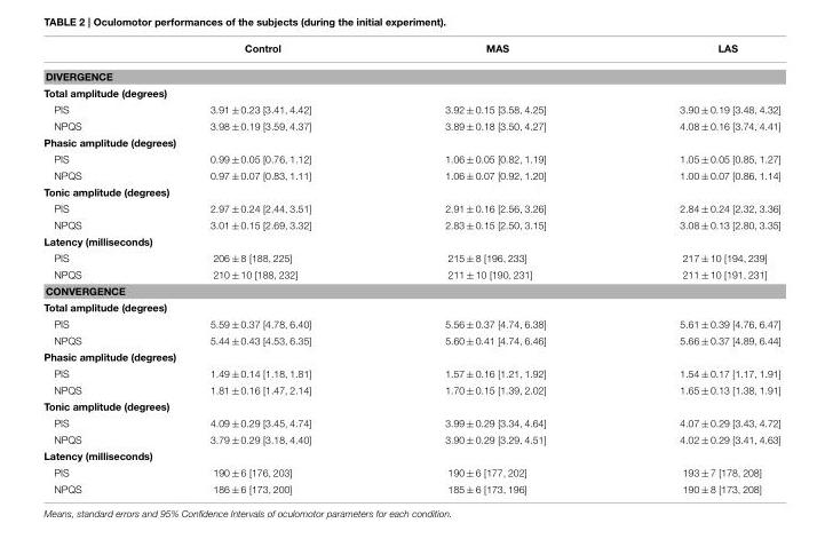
<table><thead><tr><td></td><td>Control</td><td>MAS</td><td>LAS</td></tr></thead><tbody><tr><td colspan="4">DIVERGENCE</td></tr><tr><td colspan="4">Total amplitude (degrees)</td></tr><tr><td>PIS</td><td>3.91 ± 0.23 [3.41, 4.42]</td><td>3.92 ± 0.15 [3.58, 4.25]</td><td>3.90 ± 0.19 [3.48, 4.32]</td></tr><tr><td>NPQS</td><td>3.98 ± 0.19 [3.59, 4.37]</td><td>3.89 ± 0.18 [3.50, 4.27]</td><td>4.08 ± 0.16 [3.74, 4.41]</td></tr><tr><td colspan="4">Phasic amplitude (degrees)</td></tr><tr><td>PIS</td><td>0.99 ± 0.05 [0.76, 1.12]</td><td>1.06 ± 0.05 [0.82, 1.19]</td><td>1.05 ± 0.05 [0.85, 1.27]</td></tr><tr><td>NPQS</td><td>0.97 ± 0.07 [0.83, 1.11]</td><td>1.06 ± 0.07 [0.92, 1.20]</td><td>1.00 ± 0.07 [0.86, 1.14]</td></tr><tr><td colspan="4">Tonic amplitude (degrees)</td></tr><tr><td>PIS</td><td>2.97 ± 0.24 [2.44, 3.51]</td><td>2.91 ± 0.16 [2.56, 3.26]</td><td>2.84 ± 0.24 [2.32, 3.36]</td></tr><tr><td>NPQS</td><td>3.01 ± 0.15 [2.69, 3.32]</td><td>2.83 ± 0.15 [2.50, 3.15]</td><td>3.08 ± 0.13 [2.80, 3.35]</td></tr><tr><td colspan="4">Latency (milliseconds)</td></tr><tr><td>PIS</td><td>206 ± 8 [188, 225]</td><td>215 ± 8 [196, 233]</td><td>217 ± 10 [194, 239]</td></tr><tr><td>NPQS</td><td>210 ± 10 [188, 232]</td><td>211 ± 10 [190, 231]</td><td>211 ± 10 [191, 231]</td></tr><tr><td colspan="4">CONVERGENCE</td></tr><tr><td colspan="4">Total amplitude (degrees)</td></tr><tr><td>PIS</td><td>5.59 ± 0.37 [4.78, 6.40]</td><td>5.56 ± 0.37 [4.74, 6.38]</td><td>5.61 ± 0.39 [4.76, 6.47]</td></tr><tr><td>NPQS</td><td>5.44 ± 0.43 [4.53, 6.35]</td><td>5.60 ± 0.41 [4.74, 6.46]</td><td>5.66 ± 0.37 [4.89, 6.44]</td></tr><tr><td colspan="4">Phasic amplitude (degrees)</td></tr><tr><td>PIS</td><td>1.49 ± 0.14 [1.18, 1.81]</td><td>1.57 ± 0.16 [1.21, 1.92]</td><td>1.54 ± 0.17 [1.17, 1.91]</td></tr><tr><td>NPQS</td><td>1.81 ± 0.16 [1.47, 2.14]</td><td>1.70 ± 0.15 [1.39, 2.02]</td><td>1.65 ± 0.13 [1.38, 1.91]</td></tr><tr><td colspan="4">Tonic amplitude (degrees)</td></tr><tr><td>PIS</td><td>4.09 ± 0.29 [3.45, 4.74]</td><td>3.99 ± 0.29 [3.34, 4.64]</td><td>4.07 ± 0.29 [3.43, 4.72]</td></tr><tr><td>NPQS</td><td>3.79 ± 0.29 [3.18, 4.40]</td><td>3.90 ± 0.29 [3.29, 4.51]</td><td>4.02 ± 0.29 [3.41, 4.63]</td></tr><tr><td colspan="4">Latency (milliseconds)</td></tr><tr><td>PIS</td><td>190 ± 6 [176, 203]</td><td>190 ± 6 [177, 202]</td><td>193 ± 7 [178, 208]</td></tr><tr><td>NPQS</td><td>186 ± 6 [173, 200]</td><td>185 ± 6 [173, 196]</td><td>190 ± 8 [173, 208]</td></tr></tbody></table>